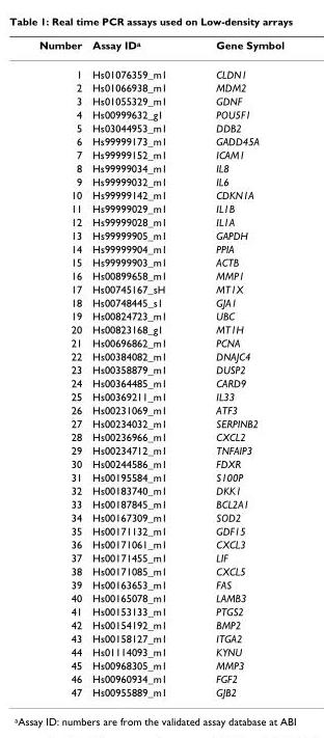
<table><thead><tr><td>Number</td><td>Assay ID<sup>a</sup></td><td>Gene Symbol</td></tr></thead><tbody><tr><td>1</td><td>Hs01076359_m1</td><td>CLDN1</td></tr><tr><td>2</td><td>Hs01066938_m1</td><td>MDM2</td></tr><tr><td>3</td><td>Hs01055329_m1</td><td>GDNF</td></tr><tr><td>4</td><td>Hs00999632_g1</td><td>POU5F1</td></tr><tr><td>5</td><td>Hs03044953_m1</td><td>DDB2</td></tr><tr><td>6</td><td>Hs99999173_m1</td><td>GADD45A</td></tr><tr><td>7</td><td>Hs99999152_m1</td><td>ICAM1</td></tr><tr><td>8</td><td>Hs99999034_m1</td><td>IL8</td></tr><tr><td>9</td><td>Hs99999032_m1</td><td>IL6</td></tr><tr><td>10</td><td>Hs99999142_m1</td><td>CDKN1A</td></tr><tr><td>11</td><td>Hs99999029_m1</td><td>IL1B</td></tr><tr><td>12</td><td>Hs99999028_m1</td><td>IL1A</td></tr><tr><td>13</td><td>Hs99999905_m1</td><td>GAPDH</td></tr><tr><td>14</td><td>Hs99999904_m1</td><td>PPIA</td></tr><tr><td>15</td><td>Hs99999903_m1</td><td>ACTB</td></tr><tr><td>16</td><td>Hs00899658_m1</td><td>MMP1</td></tr><tr><td>17</td><td>Hs00745167_sH</td><td>MT1X</td></tr><tr><td>18</td><td>Hs00748445_s1</td><td>GJA1</td></tr><tr><td>19</td><td>Hs00824723_m1</td><td>UBC</td></tr><tr><td>20</td><td>Hs00823168_g1</td><td>MT1H</td></tr><tr><td>21</td><td>Hs00696862_m1</td><td>PCNA</td></tr><tr><td>22</td><td>Hs00384082_m1</td><td>DNAJC4</td></tr><tr><td>23</td><td>Hs00358879_m1</td><td>DUSP2</td></tr><tr><td>24</td><td>Hs00364485_m1</td><td>CARD9</td></tr><tr><td>25</td><td>Hs00369211_m1</td><td>IL33</td></tr><tr><td>26</td><td>Hs00231069_m1</td><td>ATF3</td></tr><tr><td>27</td><td>Hs00234032_m1</td><td>SERPINB2</td></tr><tr><td>28</td><td>Hs00236966_m1</td><td>CXCL2</td></tr><tr><td>29</td><td>Hs00234712_m1</td><td>TNFAIP3</td></tr><tr><td>30</td><td>Hs00244586_m1</td><td>FDXR</td></tr><tr><td>31</td><td>Hs00195584_m1</td><td>S100P</td></tr><tr><td>32</td><td>Hs00183740_m1</td><td>DKK1</td></tr><tr><td>33</td><td>Hs00187845_m1</td><td>BCL2A1</td></tr><tr><td>34</td><td>Hs00167309_m1</td><td>SOD2</td></tr><tr><td>35</td><td>Hs00171132_m1</td><td>GDF15</td></tr><tr><td>36</td><td>Hs00171061_m1</td><td>CXCL3</td></tr><tr><td>37</td><td>Hs00171455_m1</td><td>LIF</td></tr><tr><td>38</td><td>Hs00171085_m1</td><td>CXCL5</td></tr><tr><td>39</td><td>Hs00163653_m1</td><td>FAS</td></tr><tr><td>40</td><td>Hs00165078_m1</td><td>LAMB3</td></tr><tr><td>41</td><td>Hs00153133_m1</td><td>PTGS2</td></tr><tr><td>42</td><td>Hs00154192_m1</td><td>BMP2</td></tr><tr><td>43</td><td>Hs00158127_m1</td><td>ITGA2</td></tr><tr><td>44</td><td>Hs01114093_m1</td><td>KYNU</td></tr><tr><td>45</td><td>Hs00968305_m1</td><td>MMP3</td></tr><tr><td>46</td><td>Hs00960934_m1</td><td>FGF2</td></tr><tr><td>47</td><td>Hs00955889_m1</td><td>GJB2</td></tr></tbody></table>